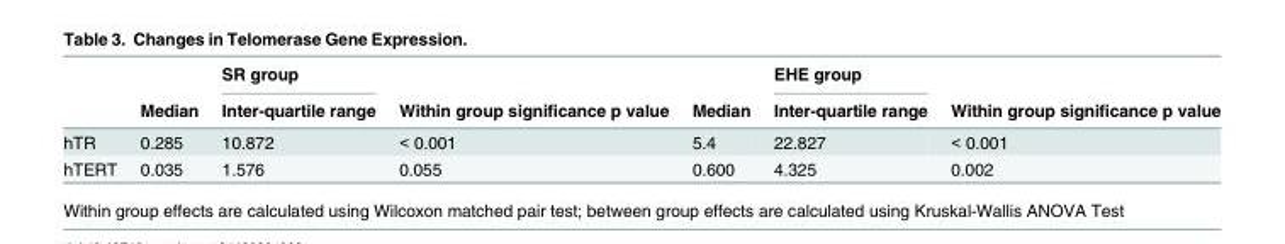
<table><thead><tr><td rowspan="2"></td><td rowspan="2">Median</td><td rowspan="2">SR group Inter-quartile range</td><td rowspan="2">Within group significance p value</td><td rowspan="2">Median</td><td rowspan="2">EHE group Inter-quartile range</td><td rowspan="2">Within group significance p value</td></tr><tr></tr></thead><tbody><tr><td>hTR</td><td>0.285</td><td>10.872</td><td>&lt; 0.001</td><td>5.4</td><td>22.827</td><td>&lt; 0.001</td></tr><tr><td>hTERT</td><td>0.035</td><td>1.576</td><td>0.055</td><td>0.600</td><td>4.325</td><td>0.002</td></tr></tbody></table>